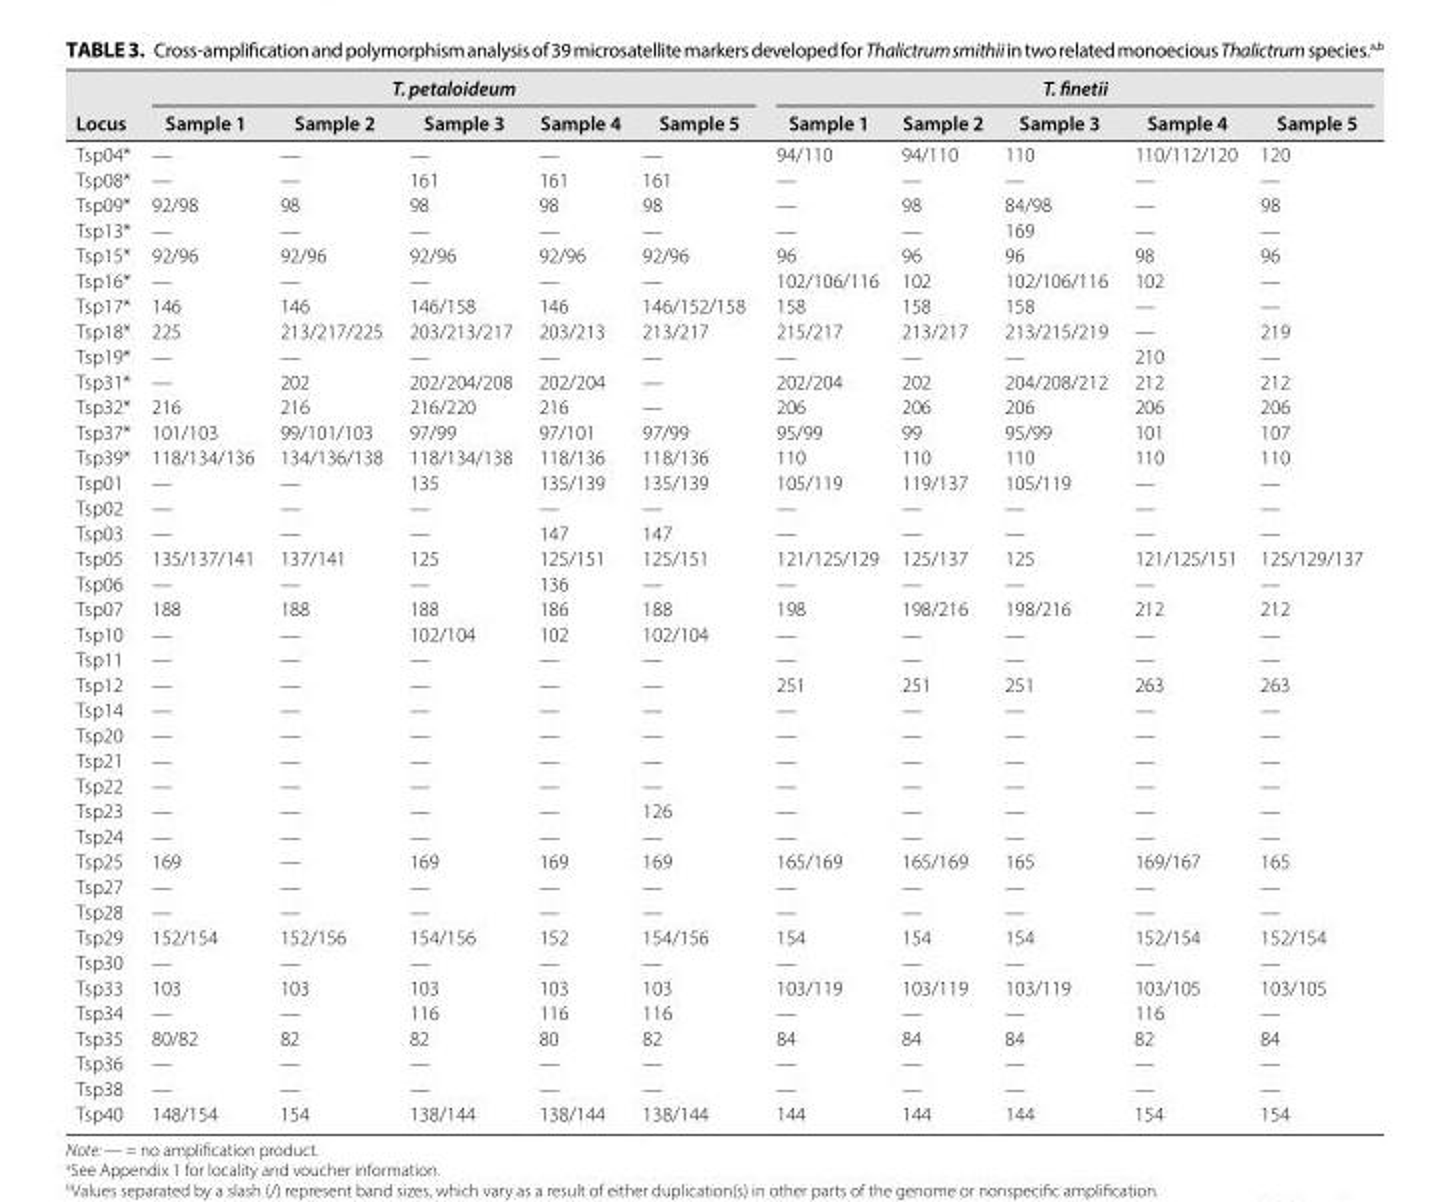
<table><thead><tr><td rowspan="2">Locus</td><td colspan="5">T. petaloideum</td><td colspan="5">T. finetii</td></tr><tr><td>Sample 1</td><td>Sample 2</td><td>Sample 3</td><td>Sample 4</td><td>Sample 5</td><td>Sample 1</td><td>Sample 2</td><td>Sample 3</td><td>Sample 4</td><td>Sample 5</td></tr></thead><tbody><tr><td>Tsp04*</td><td>—</td><td>—</td><td>—</td><td>—</td><td>—</td><td>94/110</td><td>94/110</td><td>110</td><td>110/112/120</td><td>120</td></tr><tr><td>Tsp08*</td><td>—</td><td>—</td><td>161</td><td>161</td><td>161</td><td>—</td><td>—</td><td>—</td><td>—</td><td>—</td></tr><tr><td>Tsp09*</td><td>92/98</td><td>98</td><td>98</td><td>98</td><td>98</td><td>—</td><td>98</td><td>84/98</td><td>—</td><td>98</td></tr><tr><td>Tsp13*</td><td>—</td><td>—</td><td>—</td><td>—</td><td>—</td><td>—</td><td>—</td><td>169</td><td>—</td><td>—</td></tr><tr><td>Tsp15*</td><td>92/96</td><td>92/96</td><td>92/96</td><td>92/96</td><td>92/96</td><td>96</td><td>96</td><td>96</td><td>98</td><td>96</td></tr><tr><td>Tsp16*</td><td>—</td><td>—</td><td>—</td><td>—</td><td>—</td><td>102/106/116</td><td>102</td><td>102/106/116</td><td>102</td><td>—</td></tr><tr><td>Tsp17*</td><td>146</td><td>146</td><td>146/158</td><td>146</td><td>146/152/158</td><td>158</td><td>158</td><td>158</td><td>—</td><td>—</td></tr><tr><td>Tsp18*</td><td>225</td><td>213/217/225</td><td>203/213/217</td><td>203/213</td><td>213/217</td><td>215/217</td><td>213/217</td><td>213/215/219</td><td>—</td><td>219</td></tr><tr><td>Tsp19*</td><td>—</td><td>—</td><td>—</td><td>—</td><td>—</td><td>—</td><td>—</td><td>—</td><td>210</td><td>—</td></tr><tr><td>Tsp31*</td><td>—</td><td>202</td><td>202/204/208</td><td>202/204</td><td>—</td><td>202/204</td><td>202</td><td>204/208/212</td><td>212</td><td>212</td></tr><tr><td>Tsp32*</td><td>216</td><td>216</td><td>216/220</td><td>216</td><td>—</td><td>206</td><td>206</td><td>206</td><td>206</td><td>206</td></tr><tr><td>Tsp37*</td><td>101/103</td><td>99/101/103</td><td>97/99</td><td>97/101</td><td>97/99</td><td>95/99</td><td>99</td><td>95/99</td><td>101</td><td>107</td></tr><tr><td>Tsp39*</td><td>118/134/136</td><td>134/136/138</td><td>118/134/138</td><td>118/136</td><td>118/136</td><td>110</td><td>110</td><td>110</td><td>110</td><td>110</td></tr><tr><td>Tsp01</td><td>—</td><td>—</td><td>135</td><td>135/139</td><td>135/139</td><td>105/119</td><td>119/137</td><td>105/119</td><td>—</td><td>—</td></tr><tr><td>Tsp02</td><td>—</td><td>—</td><td>—</td><td>—</td><td>—</td><td>—</td><td>—</td><td>—</td><td>—</td><td>—</td></tr><tr><td>Tsp03</td><td>—</td><td>—</td><td>—</td><td>147</td><td>147</td><td>—</td><td>—</td><td>—</td><td>—</td><td>—</td></tr><tr><td>Tsp05</td><td>135/137/141</td><td>137/141</td><td>125</td><td>125/151</td><td>125/151</td><td>121/125/129</td><td>125/137</td><td>125</td><td>121/125/151</td><td>125/129/137</td></tr><tr><td>Tsp06</td><td>—</td><td>—</td><td>—</td><td>136</td><td>—</td><td>—</td><td>—</td><td>—</td><td>—</td><td>—</td></tr><tr><td>Tsp07</td><td>188</td><td>188</td><td>188</td><td>186</td><td>188</td><td>198</td><td>198/216</td><td>198/216</td><td>212</td><td>212</td></tr><tr><td>Tsp10</td><td>—</td><td>—</td><td>102/104</td><td>102</td><td>102/104</td><td>—</td><td>—</td><td>—</td><td>—</td><td>—</td></tr><tr><td>Tsp11</td><td>—</td><td>—</td><td>—</td><td>—</td><td>—</td><td>—</td><td>—</td><td>—</td><td>—</td><td>—</td></tr><tr><td>Tsp12</td><td>—</td><td>—</td><td>—</td><td>—</td><td>—</td><td>251</td><td>251</td><td>251</td><td>263</td><td>263</td></tr><tr><td>Tsp14</td><td>—</td><td>—</td><td>—</td><td>—</td><td>—</td><td>—</td><td>—</td><td>—</td><td>—</td><td>—</td></tr><tr><td>Tsp20</td><td>—</td><td>—</td><td>—</td><td>—</td><td>—</td><td>—</td><td>—</td><td>—</td><td>—</td><td>—</td></tr><tr><td>Tsp21</td><td>—</td><td>—</td><td>—</td><td>—</td><td>—</td><td>—</td><td>—</td><td>—</td><td>—</td><td>—</td></tr><tr><td>Tsp22</td><td>—</td><td>—</td><td>—</td><td>—</td><td>—</td><td>—</td><td>—</td><td>—</td><td>—</td><td>—</td></tr><tr><td>Tsp23</td><td>—</td><td>—</td><td>—</td><td>—</td><td>126</td><td>—</td><td>—</td><td>—</td><td>—</td><td>—</td></tr><tr><td>Tsp24</td><td>—</td><td>—</td><td>—</td><td>—</td><td>—</td><td>—</td><td>—</td><td>—</td><td>—</td><td>—</td></tr><tr><td>Tsp25</td><td>169</td><td>—</td><td>169</td><td>169</td><td>169</td><td>165/169</td><td>165/169</td><td>165</td><td>169/167</td><td>165</td></tr><tr><td>Tsp27</td><td>—</td><td>—</td><td>—</td><td>—</td><td>—</td><td>—</td><td>—</td><td>—</td><td>—</td><td>—</td></tr><tr><td>Tsp28</td><td>—</td><td>—</td><td>—</td><td>—</td><td>—</td><td>—</td><td>—</td><td>—</td><td>—</td><td>—</td></tr><tr><td>Tsp29</td><td>152/154</td><td>152/156</td><td>154/156</td><td>152</td><td>154/156</td><td>154</td><td>154</td><td>154</td><td>152/154</td><td>152/154</td></tr><tr><td>Tsp30</td><td>—</td><td>—</td><td>—</td><td>—</td><td>—</td><td>—</td><td>—</td><td>—</td><td>—</td><td>—</td></tr><tr><td>Tsp33</td><td>103</td><td>103</td><td>103</td><td>103</td><td>103</td><td>103/119</td><td>103/119</td><td>103/119</td><td>103/105</td><td>103/105</td></tr><tr><td>Tsp34</td><td>—</td><td>—</td><td>116</td><td>116</td><td>116</td><td>—</td><td>—</td><td>—</td><td>116</td><td>—</td></tr><tr><td>Tsp35</td><td>80/82</td><td>82</td><td>82</td><td>80</td><td>82</td><td>84</td><td>84</td><td>84</td><td>82</td><td>84</td></tr><tr><td>Tsp36</td><td>—</td><td>—</td><td>—</td><td>—</td><td>—</td><td>—</td><td>—</td><td>—</td><td>—</td><td>—</td></tr><tr><td>Tsp38</td><td>—</td><td>—</td><td>—</td><td>—</td><td>—</td><td>—</td><td>—</td><td>—</td><td>—</td><td>—</td></tr><tr><td>Tsp40</td><td>148/154</td><td>154</td><td>138/144</td><td>138/144</td><td>138/144</td><td>144</td><td>144</td><td>144</td><td>154</td><td>154</td></tr></tbody></table>